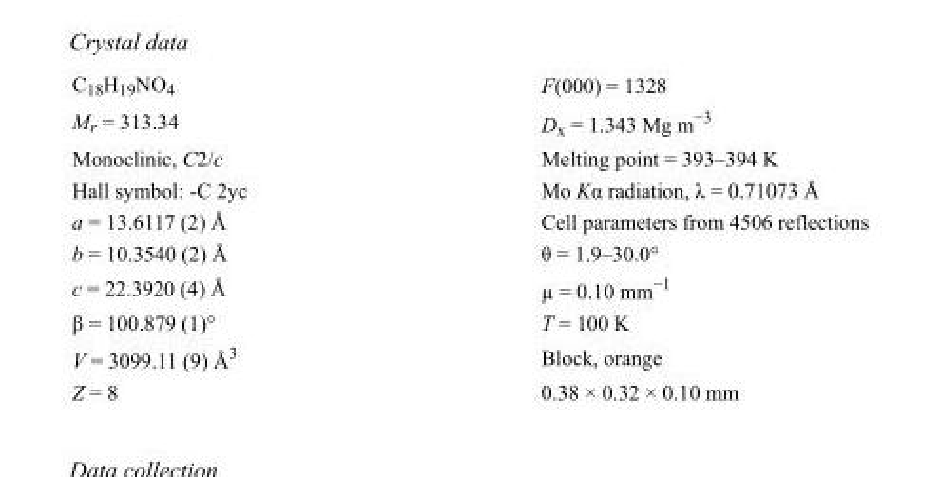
<table><tbody><tr><td>C<sub>18</sub>H<sub>19</sub>NO<sub>4</sub></td><td>F(000) = 1328</td></tr><tr><td>M<sub>r</sub> = 313.34</td><td>D<sub>x</sub> = 1.343 Mg m<sup>−3</sup></td></tr><tr><td>Monoclinic, C2/c</td><td>Melting point = 393–394 K</td></tr><tr><td>Hall symbol: -C 2yc</td><td>Mo Kα radiation, λ = 0.71073 Å</td></tr><tr><td>a = 13.6117 (2) Å</td><td>Cell parameters from 4506 reflections</td></tr><tr><td>b = 10.3540 (2) Å</td><td>θ = 1.9–30.0°</td></tr><tr><td>c = 22.3920 (4) Å</td><td>µ = 0.10 mm<sup>−1</sup></td></tr><tr><td>β = 100.879 (1)°</td><td>T = 100 K</td></tr><tr><td>V = 3099.11 (9) Å<sup>3</sup></td><td>Block, orange</td></tr><tr><td>Z = 8</td><td>0.38 × 0.32 × 0.10 mm</td></tr></tbody></table>